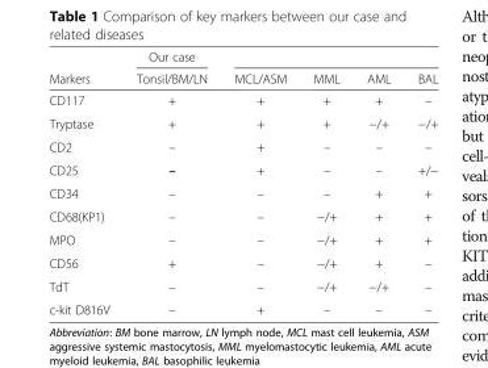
<table><thead><tr><td rowspan="2">Markers</td><td rowspan="2">Our case Tonsil/BM/LN</td><td rowspan="2">MCL/ASM</td><td rowspan="2">MML</td><td rowspan="2">AML</td><td rowspan="2">BAL</td></tr><tr></tr></thead><tbody><tr><td>CD117</td><td>+</td><td>+</td><td>+</td><td>+</td><td>–</td></tr><tr><td>Tryptase</td><td>+</td><td>+</td><td>+</td><td>−/+</td><td>−/+</td></tr><tr><td>CD2</td><td>–</td><td>+</td><td>–</td><td>–</td><td>–</td></tr><tr><td>CD25</td><td>–</td><td>+</td><td>–</td><td>–</td><td>+/−</td></tr><tr><td>CD34</td><td>–</td><td>–</td><td>–</td><td>+</td><td>+</td></tr><tr><td>CD68(KP1)</td><td>–</td><td>–</td><td>−/+</td><td>+</td><td>+</td></tr><tr><td>MPO</td><td>–</td><td>–</td><td>−/+</td><td>+</td><td>+</td></tr><tr><td>CD56</td><td>+</td><td>–</td><td>−/+</td><td>+</td><td>–</td></tr><tr><td>TdT</td><td>–</td><td>–</td><td>−/+</td><td>−/+</td><td>–</td></tr><tr><td>c-kit D816V</td><td>–</td><td>+</td><td>–</td><td>–</td><td>–</td></tr></tbody></table>